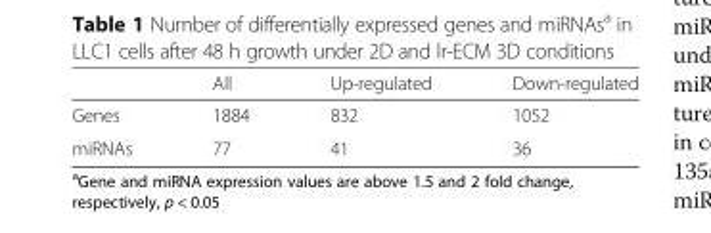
<table><thead><tr><td></td><td>All</td><td>Up-regulated</td><td>Down-regulated</td></tr></thead><tbody><tr><td>Genes</td><td>1884</td><td>832</td><td>1052</td></tr><tr><td>miRNAs</td><td>77</td><td>41</td><td>36</td></tr></tbody></table>